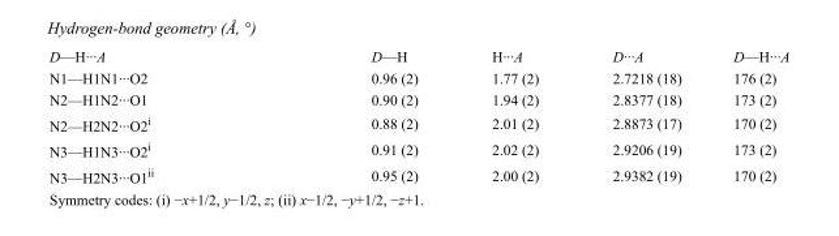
<table><tbody><tr><td>D—H···A</td><td>D—H</td><td>H···A</td><td>D···A</td><td>D—H···A</td></tr><tr><td>N1—H1N1···O2</td><td>0.96 (2)</td><td>1.77 (2)</td><td>2.7218 (18)</td><td>176 (2)</td></tr><tr><td>N2—H1N2···O1</td><td>0.90 (2)</td><td>1.94 (2)</td><td>2.8377 (18)</td><td>173 (2)</td></tr><tr><td>N2—H2N2···O2<sup>i</sup></td><td>0.88 (2)</td><td>2.01 (2)</td><td>2.8873 (17)</td><td>170 (2)</td></tr><tr><td>N3—H1N3···O2<sup>i</sup></td><td>0.91 (2)</td><td>2.02 (2)</td><td>2.9206 (19)</td><td>173 (2)</td></tr><tr><td>N3—H2N3···O1<sup>ii</sup></td><td>0.95 (2)</td><td>2.00 (2)</td><td>2.9382 (19)</td><td>170 (2)</td></tr></tbody></table>